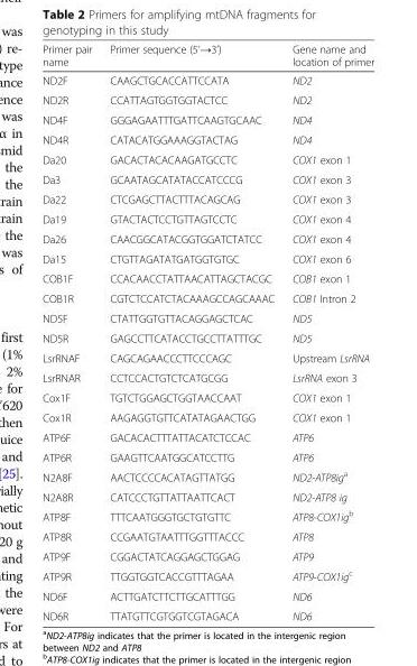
<table><thead><tr><td>Primer pair name</td><td>Primer sequence (5’→3’)</td><td>Gene name and location of primer</td></tr></thead><tbody><tr><td>ND2F</td><td>CAAGCTGCACCATTCCATA</td><td>ND2</td></tr><tr><td>ND2R</td><td>CCATTAGTGGTGGTACTCC</td><td>ND2</td></tr><tr><td>ND4F</td><td>GGGAGAATTTGATTCAAGTGCAAC</td><td>ND4</td></tr><tr><td>ND4R</td><td>CATACATGGAAAGGTACTAG</td><td>ND4</td></tr><tr><td>Da20</td><td>GACACTACACAAGATGCCTC</td><td>COX1 exon 1</td></tr><tr><td>Da3</td><td>GCAATAGCATATACCATCCCG</td><td>COX1 exon 3</td></tr><tr><td>Da22</td><td>CTCGAGCTTACTTTACAGCAG</td><td>COX1 exon 3</td></tr><tr><td>Da19</td><td>GTACTACTCCTGTTAGTCCTC</td><td>COX1 exon 4</td></tr><tr><td>Da26</td><td>CAACGGCATACGGTGGATCTATCC</td><td>COX1 exon 4</td></tr><tr><td>Da15</td><td>CTGTTAGATATGATGGTGTGC</td><td>COX1 exon 6</td></tr><tr><td>COB1F</td><td>CCACAACCTATTAACATTAGCTACGC</td><td>COB1 exon 1</td></tr><tr><td>COB1R</td><td>CGTCTCCATCTACAAAGCCAGCAAAC</td><td>COB1 Intron 2</td></tr><tr><td>ND5F</td><td>CTATTGGTGTTACAGGAGCTCAC</td><td>ND5</td></tr><tr><td>ND5R</td><td>GAGCCTTCATACCTGCCTTATTTGC</td><td>ND5</td></tr><tr><td>LsrRNAF</td><td>CAGCAGAACCCTTCCCAGC</td><td>Upstream LsrRNA</td></tr><tr><td>LsrRNAR</td><td>CCTCCACTGTCTCATGCGG</td><td>LsrRNA exon 3</td></tr><tr><td>Cox1F</td><td>TGTCTGGAGCTGGTAACCAAT</td><td>COX1 exon 1</td></tr><tr><td>Cox1R</td><td>AAGAGGTGTTCATATAGAACTGG</td><td>COX1 exon 1</td></tr><tr><td>ATP6F</td><td>GACACACTTTATTACATCTCCAC</td><td>ATP6</td></tr><tr><td>ATP6R</td><td>GAAGTTCAATGGCATCCTTG</td><td>ATP6</td></tr><tr><td>N2A8F</td><td>AACTCCCCACATAGTTATGG</td><td>ND2-ATP8ig<sup>a</sup></td></tr><tr><td>N2A8R</td><td>CATCCCTGTTATTAATTCACT</td><td>ND2-ATP8 ig</td></tr><tr><td>ATP8F</td><td>TTTCAATGGGTGCTGTGTTC</td><td>ATP8-COX1ig<sup>b</sup></td></tr><tr><td>ATP8R</td><td>CCGAATGTAATTTGGTTTACCC</td><td>ATP8</td></tr><tr><td>ATP9F</td><td>CGGACTATCAGGAGCTGGAG</td><td>ATP9</td></tr><tr><td>ATP9R</td><td>TTGGTGGTCACCGTTTAGAA</td><td>ATP9-COX1ig<sup>c</sup></td></tr><tr><td>ND6F</td><td>ACTTGATCTTCTTGCATTTGG</td><td>ND6</td></tr><tr><td>ND6R</td><td>TTATGTTCGTGGTCGTAGACA</td><td>ND6</td></tr></tbody></table>